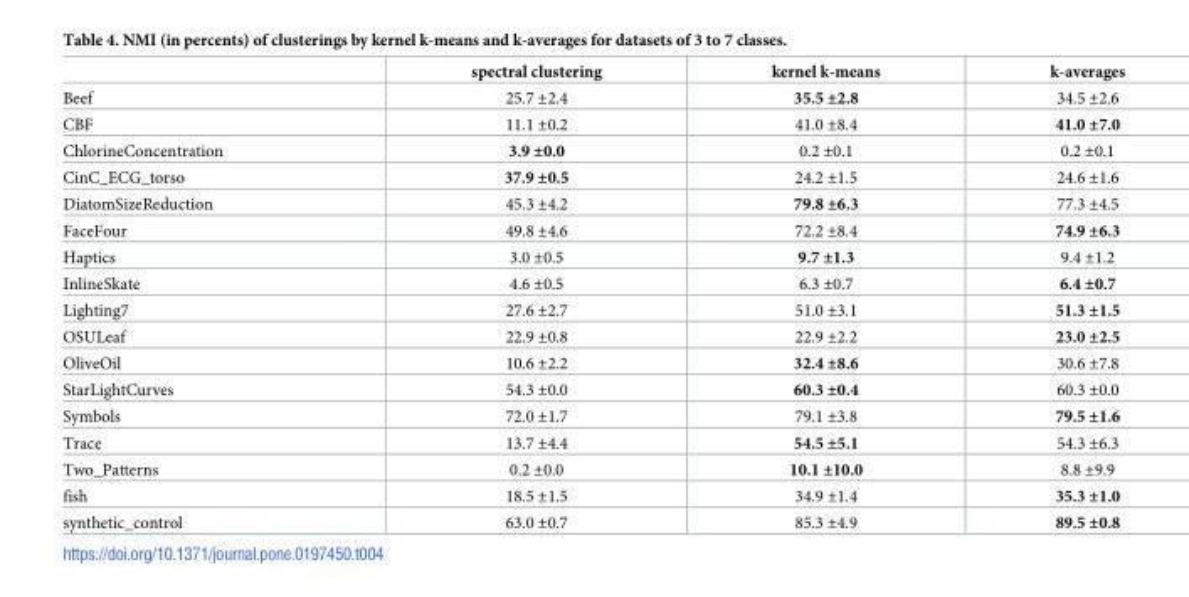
<table><thead><tr><td></td><td>spectral clustering</td><td>kernel k-means</td><td>k-averages</td></tr></thead><tbody><tr><td>Beef</td><td>25.7 ±2.4</td><td>35.5 ±2.8</td><td>34.5 ±2.6</td></tr><tr><td>CBF</td><td>11.1 ±0.2</td><td>41.0 ±8.4</td><td>41.0 ±7.0</td></tr><tr><td>ChlorineConcentration</td><td>3.9 ±0.0</td><td>0.2 ±0.1</td><td>0.2 ±0.1</td></tr><tr><td>CinC_ECG_torso</td><td>37.9 ±0.5</td><td>24.2 ±1.5</td><td>24.6 ±1.6</td></tr><tr><td>DiatomSizeReduction</td><td>45.3 ±4.2</td><td>79.8 ±6.3</td><td>77.3 ±4.5</td></tr><tr><td>FaceFour</td><td>49.8 ±4.6</td><td>72.2 ±8.4</td><td>74.9 ±6.3</td></tr><tr><td>Haptics</td><td>3.0 ±0.5</td><td>9.7 ±1.3</td><td>9.4 ±1.2</td></tr><tr><td>InlineSkate</td><td>4.6 ±0.5</td><td>6.3 ±0.7</td><td>6.4 ±0.7</td></tr><tr><td>Lighting7</td><td>27.6 ±2.7</td><td>51.0 ±3.1</td><td>51.3 ±1.5</td></tr><tr><td>OSULeaf</td><td>22.9 ±0.8</td><td>22.9 ±2.2</td><td>23.0 ±2.5</td></tr><tr><td>OliveOil</td><td>10.6 ±2.2</td><td>32.4 ±8.6</td><td>30.6 ±7.8</td></tr><tr><td>StarLightCurves</td><td>54.3 ±0.0</td><td>60.3 ±0.4</td><td>60.3 ±0.0</td></tr><tr><td>Symbols</td><td>72.0 ±1.7</td><td>79.1 ±3.8</td><td>79.5 ±1.6</td></tr><tr><td>Trace</td><td>13.7 ±4.4</td><td>54.5 ±5.1</td><td>54.3 ±6.3</td></tr><tr><td>Two_Patterns</td><td>0.2 ±0.0</td><td>10.1 ±10.0</td><td>8.8 ±9.9</td></tr><tr><td>fish</td><td>18.5 ±1.5</td><td>34.9 ±1.4</td><td>35.3 ±1.0</td></tr><tr><td>synthetic_control</td><td>63.0 ±0.7</td><td>85.3 ±4.9</td><td>89.5 ±0.8</td></tr></tbody></table>